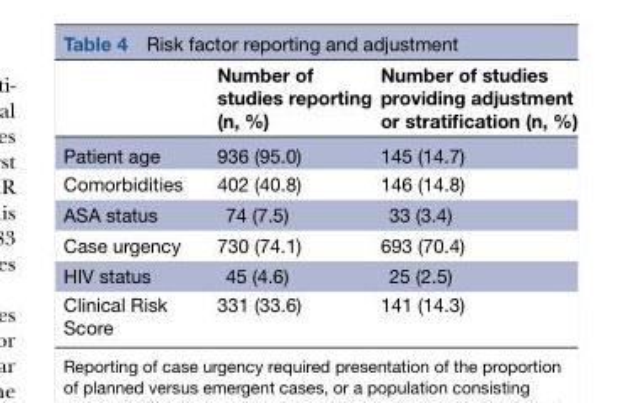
<table><thead><tr><td></td><td>Number of studies reporting (n, %)</td><td>Number of studies providing adjustment or stratification (n, %)</td></tr></thead><tbody><tr><td>Patient age</td><td>936 (95.0)</td><td>145 (14.7)</td></tr><tr><td>Comorbidities</td><td>402 (40.8)</td><td>146 (14.8)</td></tr><tr><td>ASA status</td><td>74 (7.5)</td><td>33 (3.4)</td></tr><tr><td>Case urgency</td><td>730 (74.1)</td><td>693 (70.4)</td></tr><tr><td>HIV status</td><td>45 (4.6)</td><td>25 (2.5)</td></tr><tr><td>Clinical Risk Score</td><td>331 (33.6)</td><td>141 (14.3)</td></tr></tbody></table>